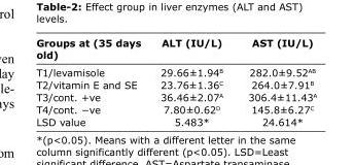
<table><thead><tr><td>Groups at (35 days old)</td><td>ALT (IU/L)</td><td>AST (IU/L)</td></tr></thead><tbody><tr><td>T1/levamisole</td><td>29.66±1.94<sup>B</sup></td><td>282.0±9.52<sup>AB</sup></td></tr><tr><td>T2/vitamin E and SE</td><td>23.76±1.36<sup>C</sup></td><td>264.0±7.91<sup>B</sup></td></tr><tr><td>T3/cont. +ve</td><td>36.46±2.07<sup>A</sup></td><td>306.4±11.43<sup>A</sup></td></tr><tr><td>T4/cont. −ve</td><td>7.80±0.62<sup>D</sup></td><td>145.8±6.27<sup>C</sup></td></tr><tr><td>LSD value</td><td>5.483*</td><td>24.614*</td></tr></tbody></table>